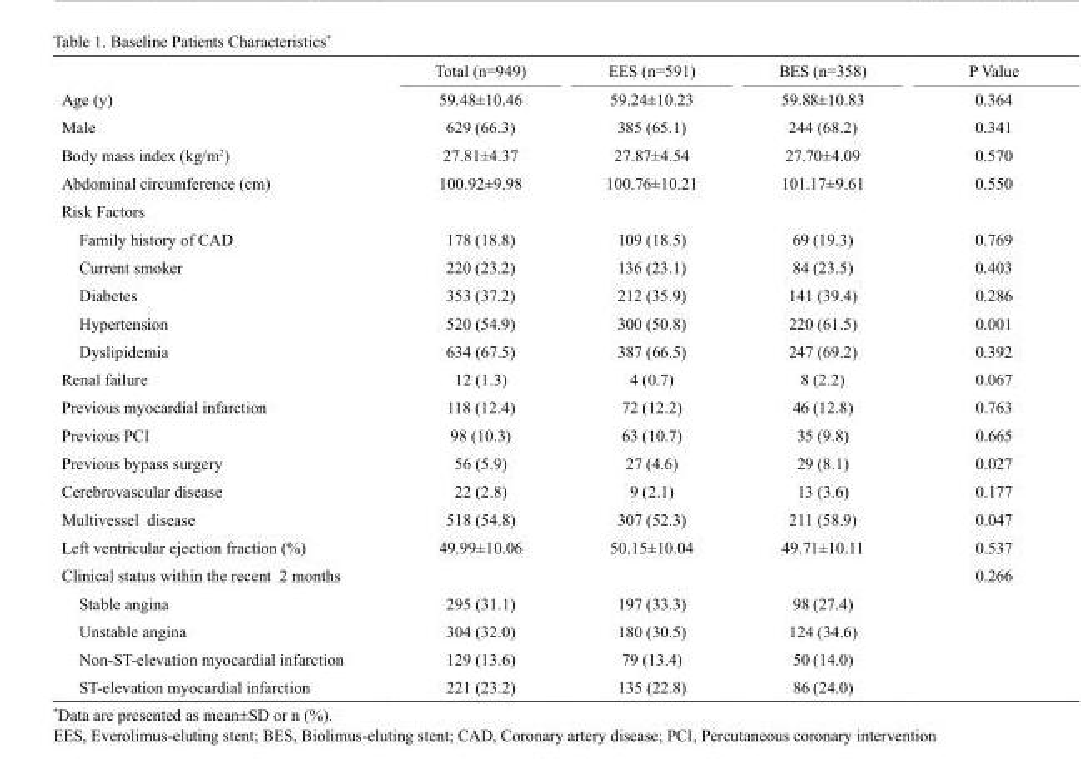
<table><thead><tr><td></td><td>Total (n=949)</td><td>EES (n=591)</td><td>BES (n=358)</td><td>P Value</td></tr></thead><tbody><tr><td>Age (y)</td><td>59.48±10.46</td><td>59.24±10.23</td><td>59.88±10.83</td><td>0.364</td></tr><tr><td>Male</td><td>629 (66.3)</td><td>385 (65.1)</td><td>244 (68.2)</td><td>0.341</td></tr><tr><td>Body mass index (kg/m<sup>2</sup>)</td><td>27.81±4.37</td><td>27.87±4.54</td><td>27.70±4.09</td><td>0.570</td></tr><tr><td>Abdominal circumference (cm)</td><td>100.92±9.98</td><td>100.76±10.21</td><td>101.17±9.61</td><td>0.550</td></tr><tr><td colspan="5">Risk Factors</td></tr><tr><td>Family history of CAD</td><td>178 (18.8)</td><td>109 (18.5)</td><td>69 (19.3)</td><td>0.769</td></tr><tr><td>Current smoker</td><td>220 (23.2)</td><td>136 (23.1)</td><td>84 (23.5)</td><td>0.403</td></tr><tr><td>Diabetes</td><td>353 (37.2)</td><td>212 (35.9)</td><td>141 (39.4)</td><td>0.286</td></tr><tr><td>Hypertension</td><td>520 (54.9)</td><td>300 (50.8)</td><td>220 (61.5)</td><td>0.001</td></tr><tr><td>Dyslipidemia</td><td>634 (67.5)</td><td>387 (66.5)</td><td>247 (69.2)</td><td>0.392</td></tr><tr><td>Renal failure</td><td>12 (1.3)</td><td>4 (0.7)</td><td>8 (2.2)</td><td>0.067</td></tr><tr><td>Previous myocardial infarction</td><td>118 (12.4)</td><td>72 (12.2)</td><td>46 (12.8)</td><td>0.763</td></tr><tr><td>Previous PCI</td><td>98 (10.3)</td><td>63 (10.7)</td><td>35 (9.8)</td><td>0.665</td></tr><tr><td>Previous bypass surgery</td><td>56 (5.9)</td><td>27 (4.6)</td><td>29 (8.1)</td><td>0.027</td></tr><tr><td>Cerebrovascular disease</td><td>22 (2.8)</td><td>9 (2.1)</td><td>13 (3.6)</td><td>0.177</td></tr><tr><td>Multivessel disease</td><td>518 (54.8)</td><td>307 (52.3)</td><td>211 (58.9)</td><td>0.047</td></tr><tr><td>Left ventricular ejection fraction (%)</td><td>49.99±10.06</td><td>50.15±10.04</td><td>49.71±10.11</td><td>0.537</td></tr><tr><td>Clinical status within the recent 2 months</td><td></td><td></td><td></td><td>0.266</td></tr><tr><td>Stable angina</td><td>295 (31.1)</td><td>197 (33.3)</td><td>98 (27.4)</td><td></td></tr><tr><td>Unstable angina</td><td>304 (32.0)</td><td>180 (30.5)</td><td>124 (34.6)</td><td></td></tr><tr><td>Non-ST-elevation myocardial infarction</td><td>129 (13.6)</td><td>79 (13.4)</td><td>50 (14.0)</td><td></td></tr><tr><td>ST-elevation myocardial infarction</td><td>221 (23.2)</td><td>135 (22.8)</td><td>86 (24.0)</td><td></td></tr></tbody></table>